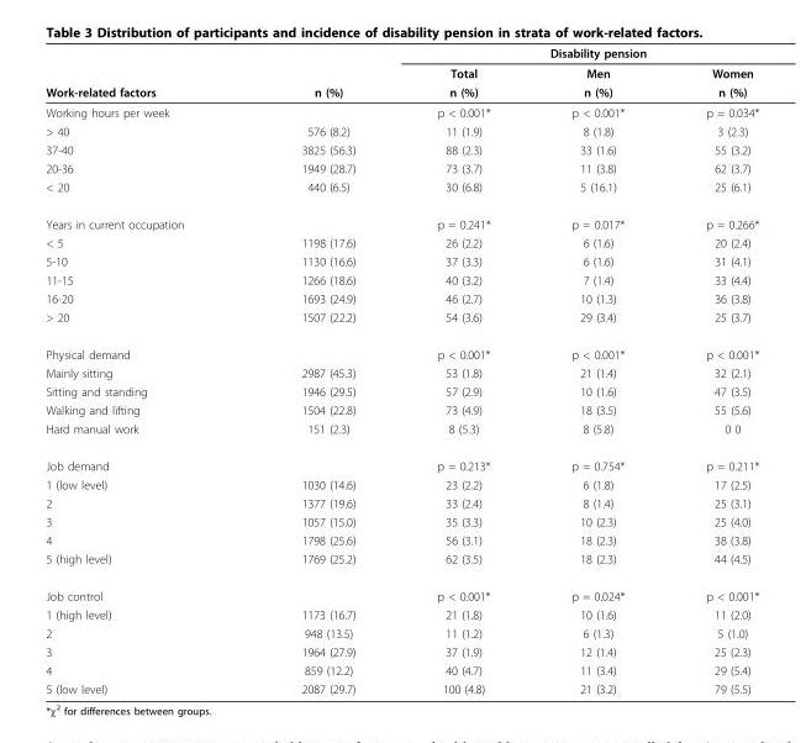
<table><thead><tr><td rowspan="3">Work-related factors</td><td rowspan="3">n (%)</td><td colspan="3">Disability pension</td></tr><tr><td rowspan="2">Total n (%)</td><td rowspan="2">Men n (%)</td><td rowspan="2">Women n (%)</td></tr><tr></tr></thead><tbody><tr><td>Working hours per week</td><td></td><td>p &lt; 0.001*</td><td>p &lt; 0.001*</td><td>p = 0.034*</td></tr><tr><td>&gt; 40</td><td>576 (8.2)</td><td>11 (1.9)</td><td>8 (1.8)</td><td>3 (2.3)</td></tr><tr><td>37-40</td><td>3825 (56.3)</td><td>88 (2.3)</td><td>33 (1.6)</td><td>55 (3.2)</td></tr><tr><td>20-36</td><td>1949 (28.7)</td><td>73 (3.7)</td><td>11 (3.8)</td><td>62 (3.7)</td></tr><tr><td>&lt; 20</td><td>440 (6.5)</td><td>30 (6.8)</td><td>5 (16.1)</td><td>25 (6.1)</td></tr><tr><td>Years in current occupation</td><td></td><td>p = 0.241*</td><td>p = 0.017*</td><td>p = 0.266*</td></tr><tr><td>&lt; 5</td><td>1198 (17.6)</td><td>26 (2.2)</td><td>6 (1.6)</td><td>20 (2.4)</td></tr><tr><td>5-10</td><td>1130 (16.6)</td><td>37 (3.3)</td><td>6 (1.6)</td><td>31 (4.1)</td></tr><tr><td>11-15</td><td>1266 (18.6)</td><td>40 (3.2)</td><td>7 (1.4)</td><td>33 (4.4)</td></tr><tr><td>16-20</td><td>1693 (24.9)</td><td>46 (2.7)</td><td>10 (1.3)</td><td>36 (3.8)</td></tr><tr><td>&gt; 20</td><td>1507 (22.2)</td><td>54 (3.6)</td><td>29 (3.4)</td><td>25 (3.7)</td></tr><tr><td>Physical demand</td><td></td><td>p &lt; 0.001*</td><td>p &lt; 0.001*</td><td>p &lt; 0.001*</td></tr><tr><td>Mainly sitting</td><td>2987 (45.3)</td><td>53 (1.8)</td><td>21 (1.4)</td><td>32 (2.1)</td></tr><tr><td>Sitting and standing</td><td>1946 (29.5)</td><td>57 (2.9)</td><td>10 (1.6)</td><td>47 (3.5)</td></tr><tr><td>Walking and lifting</td><td>1504 (22.8)</td><td>73 (4.9)</td><td>18 (3.5)</td><td>55 (5.6)</td></tr><tr><td>Hard manual work</td><td>151 (2.3)</td><td>8 (5.3)</td><td>8 (5.8)</td><td>0 0</td></tr><tr><td>Job demand</td><td></td><td>p = 0.213*</td><td>p = 0.754*</td><td>p = 0.211*</td></tr><tr><td>1 (low level)</td><td>1030 (14.6)</td><td>23 (2.2)</td><td>6 (1.8)</td><td>17 (2.5)</td></tr><tr><td>2</td><td>1377 (19.6)</td><td>33 (2.4)</td><td>8 (1.4)</td><td>25 (3.1)</td></tr><tr><td>3</td><td>1057 (15.0)</td><td>35 (3.3)</td><td>10 (2.3)</td><td>25 (4.0)</td></tr><tr><td>4</td><td>1798 (25.6)</td><td>56 (3.1)</td><td>18 (2.3)</td><td>38 (3.8)</td></tr><tr><td>5 (high level)</td><td>1769 (25.2)</td><td>62 (3.5)</td><td>18 (2.3)</td><td>44 (4.5)</td></tr><tr><td>Job control</td><td></td><td>p &lt; 0.001*</td><td>p = 0.024*</td><td>p &lt; 0.001*</td></tr><tr><td>1 (high level)</td><td>1173 (16.7)</td><td>21 (1.8)</td><td>10 (1.6)</td><td>11 (2.0)</td></tr><tr><td>2</td><td>948 (13.5)</td><td>11 (1.2)</td><td>6 (1.3)</td><td>5 (1.0)</td></tr><tr><td>3</td><td>1964 (27.9)</td><td>37 (1.9)</td><td>12 (1.4)</td><td>25 (2.3)</td></tr><tr><td>4</td><td>859 (12.2)</td><td>40 (4.7)</td><td>11 (3.4)</td><td>29 (5.4)</td></tr><tr><td>5 (low level)</td><td>2087 (29.7)</td><td>100 (4.8)</td><td>21 (3.2)</td><td>79 (5.5)</td></tr></tbody></table>